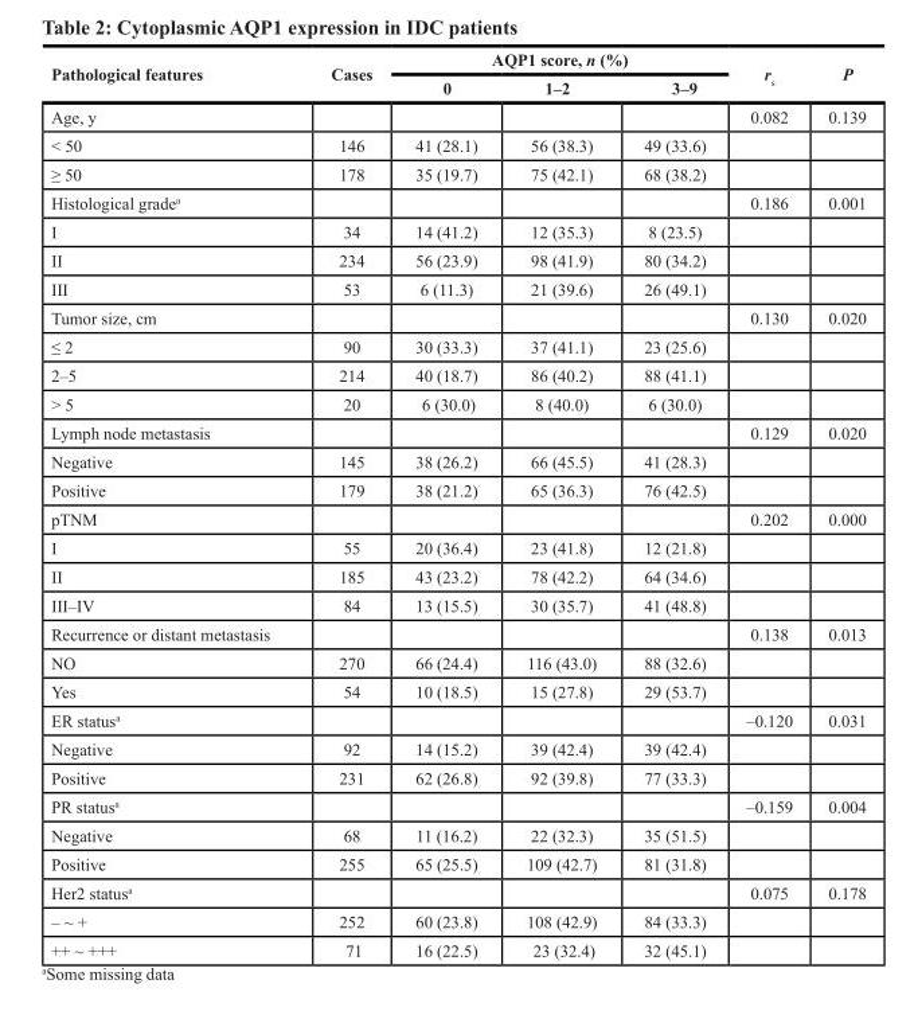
<table><thead><tr><td rowspan="2">Pathological features</td><td rowspan="2">Cases</td><td colspan="3">AQP1 score, n (%)</td><td rowspan="2">r<sub>s</sub></td><td rowspan="2">P</td></tr><tr><td>0</td><td>1–2</td><td>3–9</td></tr></thead><tbody><tr><td>Age, y</td><td></td><td></td><td></td><td></td><td>0.082</td><td>0.139</td></tr><tr><td>&lt; 50</td><td>146</td><td>41 (28.1)</td><td>56 (38.3)</td><td>49 (33.6)</td><td></td><td></td></tr><tr><td>≥ 50</td><td>178</td><td>35 (19.7)</td><td>75 (42.1)</td><td>68 (38.2)</td><td></td><td></td></tr><tr><td>Histological grade<sup>a</sup></td><td></td><td></td><td></td><td></td><td>0.186</td><td>0.001</td></tr><tr><td>I</td><td>34</td><td>14 (41.2)</td><td>12 (35.3)</td><td>8 (23.5)</td><td></td><td></td></tr><tr><td>II</td><td>234</td><td>56 (23.9)</td><td>98 (41.9)</td><td>80 (34.2)</td><td></td><td></td></tr><tr><td>III</td><td>53</td><td>6 (11.3)</td><td>21 (39.6)</td><td>26 (49.1)</td><td></td><td></td></tr><tr><td>Tumor size, cm</td><td></td><td></td><td></td><td></td><td>0.130</td><td>0.020</td></tr><tr><td>≤ 2</td><td>90</td><td>30 (33.3)</td><td>37 (41.1)</td><td>23 (25.6)</td><td></td><td></td></tr><tr><td>2–5</td><td>214</td><td>40 (18.7)</td><td>86 (40.2)</td><td>88 (41.1)</td><td></td><td></td></tr><tr><td>&gt; 5</td><td>20</td><td>6 (30.0)</td><td>8 (40.0)</td><td>6 (30.0)</td><td></td><td></td></tr><tr><td>Lymph node metastasis</td><td></td><td></td><td></td><td></td><td>0.129</td><td>0.020</td></tr><tr><td>Negative</td><td>145</td><td>38 (26.2)</td><td>66 (45.5)</td><td>41 (28.3)</td><td></td><td></td></tr><tr><td>Positive</td><td>179</td><td>38 (21.2)</td><td>65 (36.3)</td><td>76 (42.5)</td><td></td><td></td></tr><tr><td>pTNM</td><td></td><td></td><td></td><td></td><td>0.202</td><td>0.000</td></tr><tr><td>I</td><td>55</td><td>20 (36.4)</td><td>23 (41.8)</td><td>12 (21.8)</td><td></td><td></td></tr><tr><td>II</td><td>185</td><td>43 (23.2)</td><td>78 (42.2)</td><td>64 (34.6)</td><td></td><td></td></tr><tr><td>III–IV</td><td>84</td><td>13 (15.5)</td><td>30 (35.7)</td><td>41 (48.8)</td><td></td><td></td></tr><tr><td>Recurrence or distant metastasis</td><td></td><td></td><td></td><td></td><td>0.138</td><td>0.013</td></tr><tr><td>NO</td><td>270</td><td>66 (24.4)</td><td>116 (43.0)</td><td>88 (32.6)</td><td></td><td></td></tr><tr><td>Yes</td><td>54</td><td>10 (18.5)</td><td>15 (27.8)</td><td>29 (53.7)</td><td></td><td></td></tr><tr><td>ER status<sup>a</sup></td><td></td><td></td><td></td><td></td><td>–0.120</td><td>0.031</td></tr><tr><td>Negative</td><td>92</td><td>14 (15.2)</td><td>39 (42.4)</td><td>39 (42.4)</td><td></td><td></td></tr><tr><td>Positive</td><td>231</td><td>62 (26.8)</td><td>92 (39.8)</td><td>77 (33.3)</td><td></td><td></td></tr><tr><td>PR status<sup>a</sup></td><td></td><td></td><td></td><td></td><td>–0.159</td><td>0.004</td></tr><tr><td>Negative</td><td>68</td><td>11 (16.2)</td><td>22 (32.3)</td><td>35 (51.5)</td><td></td><td></td></tr><tr><td>Positive</td><td>255</td><td>65 (25.5)</td><td>109 (42.7)</td><td>81 (31.8)</td><td></td><td></td></tr><tr><td>Her2 status<sup>a</sup></td><td></td><td></td><td></td><td></td><td>0.075</td><td>0.178</td></tr><tr><td>– ~ +</td><td>252</td><td>60 (23.8)</td><td>108 (42.9)</td><td>84 (33.3)</td><td></td><td></td></tr><tr><td>++ ~ +++</td><td>71</td><td>16 (22.5)</td><td>23 (32.4)</td><td>32 (45.1)</td><td></td><td></td></tr></tbody></table>